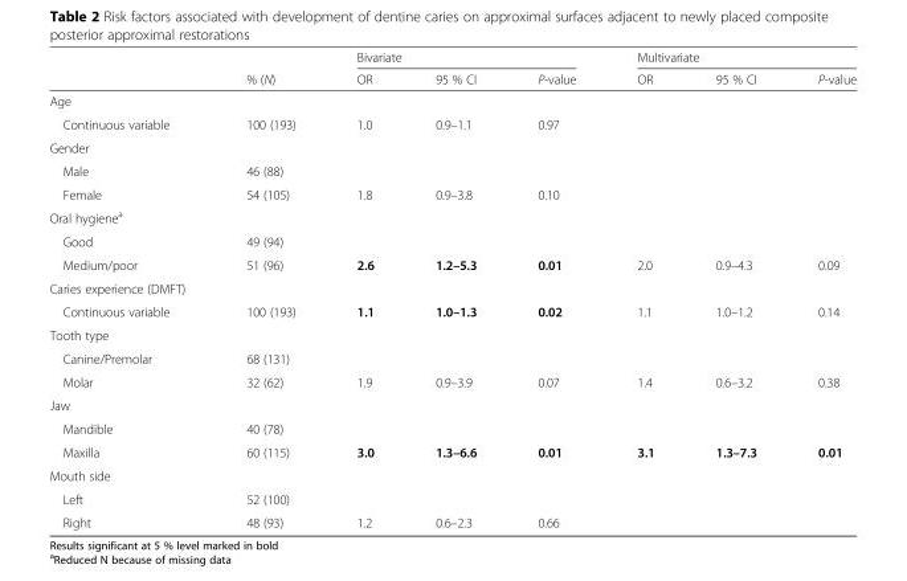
<table><thead><tr><td rowspan="2"></td><td rowspan="2">% (N)</td><td colspan="3">Bivariate</td><td colspan="3">Multivariate</td></tr><tr><td>OR</td><td>95 % CI</td><td>P-value</td><td>OR</td><td>95 % CI</td><td>P-value</td></tr></thead><tbody><tr><td colspan="8">Age</td></tr><tr><td>Continuous variable</td><td>100 (193)</td><td>1.0</td><td>0.9–1.1</td><td>0.97</td><td></td><td></td><td></td></tr><tr><td colspan="8">Gender</td></tr><tr><td>Male</td><td>46 (88)</td><td></td><td></td><td></td><td></td><td></td><td></td></tr><tr><td>Female</td><td>54 (105)</td><td>1.8</td><td>0.9–3.8</td><td>0.10</td><td></td><td></td><td></td></tr><tr><td colspan="8">Oral hygiene<sup>a</sup></td></tr><tr><td>Good</td><td>49 (94)</td><td></td><td></td><td></td><td></td><td></td><td></td></tr><tr><td>Medium/poor</td><td>51 (96)</td><td>2.6</td><td>1.2–5.3</td><td>0.01</td><td>2.0</td><td>0.9–4.3</td><td>0.09</td></tr><tr><td colspan="8">Caries experience (DMFT)</td></tr><tr><td>Continuous variable</td><td>100 (193)</td><td>1.1</td><td>1.0–1.3</td><td>0.02</td><td>1.1</td><td>1.0–1.2</td><td>0.14</td></tr><tr><td colspan="8">Tooth type</td></tr><tr><td>Canine/Premolar</td><td>68 (131)</td><td></td><td></td><td></td><td></td><td></td><td></td></tr><tr><td>Molar</td><td>32 (62)</td><td>1.9</td><td>0.9–3.9</td><td>0.07</td><td>1.4</td><td>0.6–3.2</td><td>0.38</td></tr><tr><td colspan="8">Jaw</td></tr><tr><td>Mandible</td><td>40 (78)</td><td></td><td></td><td></td><td></td><td></td><td></td></tr><tr><td>Maxilla</td><td>60 (115)</td><td>3.0</td><td>1.3–6.6</td><td>0.01</td><td>3.1</td><td>1.3–7.3</td><td>0.01</td></tr><tr><td colspan="8">Mouth side</td></tr><tr><td>Left</td><td>52 (100)</td><td></td><td></td><td></td><td></td><td></td><td></td></tr><tr><td>Right</td><td>48 (93)</td><td>1.2</td><td>0.6–2.3</td><td>0.66</td><td></td><td></td><td></td></tr></tbody></table>